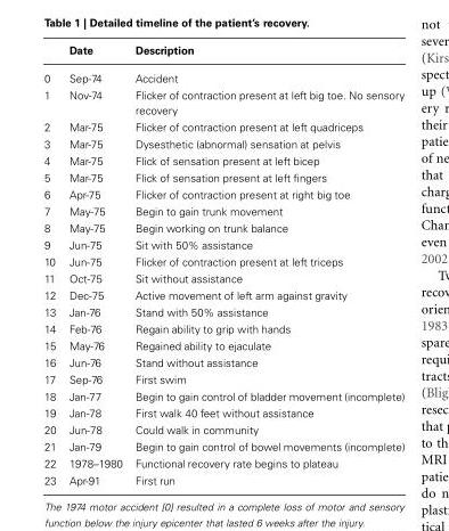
<table><thead><tr><td></td><td>Date</td><td>Description</td></tr></thead><tbody><tr><td>0</td><td>Sep-74</td><td>Accident</td></tr><tr><td>1</td><td>Nov-74</td><td>Flicker of contraction present at left big toe. No sensory recovery</td></tr><tr><td>2</td><td>Mar-75</td><td>Flicker of contraction present at left quadriceps</td></tr><tr><td>3</td><td>Mar-75</td><td>Dysesthetic (abnormal) sensation at pelvis</td></tr><tr><td>4</td><td>Mar-75</td><td>Flick of sensation present at left bicep</td></tr><tr><td>5</td><td>Mar-75</td><td>Flick of sensation present at left fingers</td></tr><tr><td>6</td><td>Apr-75</td><td>Flicker of contraction present at right big toe</td></tr><tr><td>7</td><td>May-75</td><td>Begin to gain trunk movement</td></tr><tr><td>8</td><td>May-75</td><td>Begin working on trunk balance</td></tr><tr><td>9</td><td>Jun-75</td><td>Sit with 50% assistance</td></tr><tr><td>10</td><td>Jun-75</td><td>Flicker of contraction present at left triceps</td></tr><tr><td>11</td><td>Oct-75</td><td>Sit without assistance</td></tr><tr><td>12</td><td>Dec-75</td><td>Active movement of left arm against gravity</td></tr><tr><td>13</td><td>Jan-76</td><td>Stand with 50% assistance</td></tr><tr><td>14</td><td>Feb-76</td><td>Regain ability to grip with hands</td></tr><tr><td>15</td><td>May-76</td><td>Regained ability to ejaculate</td></tr><tr><td>16</td><td>Jun-76</td><td>Stand without assistance</td></tr><tr><td>17</td><td>Sep-76</td><td>First swim</td></tr><tr><td>18</td><td>Jan-77</td><td>Begin to gain control of bladder movement (incomplete)</td></tr><tr><td>19</td><td>Jan-78</td><td>First walk 40 feet without assistance</td></tr><tr><td>20</td><td>Jun-78</td><td>Could walk in community</td></tr><tr><td>21</td><td>Jan-79</td><td>Begin to gain control of bowel movements (incomplete)</td></tr><tr><td>22</td><td>1978–1980</td><td>Functional recovery rate begins to plateau</td></tr><tr><td>23</td><td>Apr-91</td><td>First run</td></tr></tbody></table>